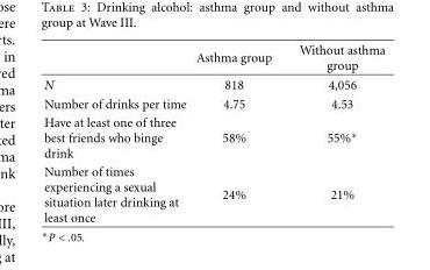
<table><thead><tr><td></td><td>Asthma group</td><td>Without asthma group</td></tr></thead><tbody><tr><td>N</td><td>818</td><td>4,056</td></tr><tr><td>Number of drinks per time</td><td>4.75</td><td>4.53</td></tr><tr><td>Have at least one of three best friends who binge drink</td><td>58%</td><td>55%∗</td></tr><tr><td>Number of times experiencing a sexual situation later drinking at least once</td><td>24%</td><td>21%</td></tr></tbody></table>